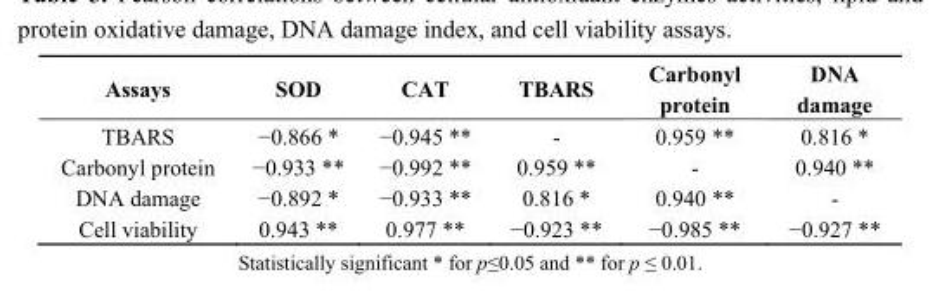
<table><thead><tr><td>Assays</td><td>SOD</td><td>CAT</td><td>TBARS</td><td>Carbonyl protein</td><td>DNA damage</td></tr></thead><tbody><tr><td>TBARS</td><td>−0.866 *</td><td>−0.945 **</td><td>-</td><td>0.959 **</td><td>0.816 *</td></tr><tr><td>Carbonyl protein</td><td>−0.933 **</td><td>−0.992 **</td><td>0.959 **</td><td>-</td><td>0.940 **</td></tr><tr><td>DNA damage</td><td>−0.892 *</td><td>−0.933 **</td><td>0.816 *</td><td>0.940 **</td><td>-</td></tr><tr><td>Cell viability</td><td>0.943 **</td><td>0.977 **</td><td>−0.923 **</td><td>−0.985 **</td><td>−0.927 **</td></tr></tbody></table>